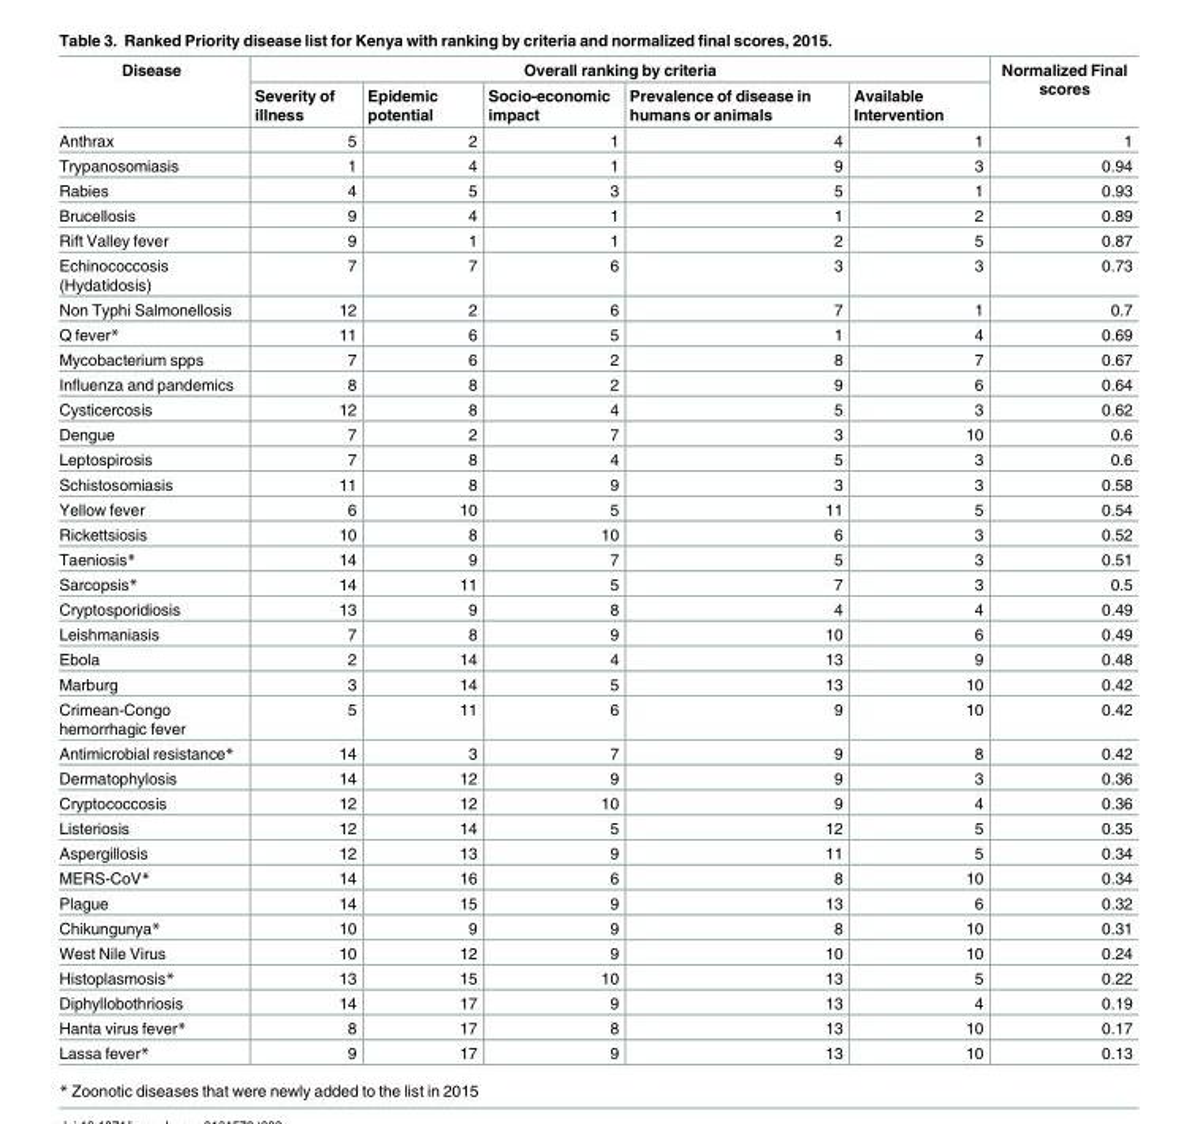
<table><thead><tr><td rowspan="2">Disease</td><td colspan="5">Overall ranking by criteria</td><td rowspan="2">Normalized Final scores</td></tr><tr><td>Severity of illness</td><td>Epidemic potential</td><td>Socio-economic impact</td><td>Prevalence of disease in humans or animals</td><td>Available Intervention</td></tr></thead><tbody><tr><td>Anthrax</td><td>5</td><td>2</td><td>1</td><td>4</td><td>1</td><td>1</td></tr><tr><td>Trypanosomiasis</td><td>1</td><td>4</td><td>1</td><td>9</td><td>3</td><td>0.94</td></tr><tr><td>Rabies</td><td>4</td><td>5</td><td>3</td><td>5</td><td>1</td><td>0.93</td></tr><tr><td>Brucellosis</td><td>9</td><td>4</td><td>1</td><td>1</td><td>2</td><td>0.89</td></tr><tr><td>Rift Valley fever</td><td>9</td><td>1</td><td>1</td><td>2</td><td>5</td><td>0.87</td></tr><tr><td>Echinococcosis (Hydatidosis)</td><td>7</td><td>7</td><td>6</td><td>3</td><td>3</td><td>0.73</td></tr><tr><td>Non Typhi Salmonellosis</td><td>12</td><td>2</td><td>6</td><td>7</td><td>1</td><td>0.7</td></tr><tr><td>Q fever*</td><td>11</td><td>6</td><td>5</td><td>1</td><td>4</td><td>0.69</td></tr><tr><td>Mycobacterium spps</td><td>7</td><td>6</td><td>2</td><td>8</td><td>7</td><td>0.67</td></tr><tr><td>Influenza and pandemics</td><td>8</td><td>8</td><td>2</td><td>9</td><td>6</td><td>0.64</td></tr><tr><td>Cysticercosis</td><td>12</td><td>8</td><td>4</td><td>5</td><td>3</td><td>0.62</td></tr><tr><td>Dengue</td><td>7</td><td>2</td><td>7</td><td>3</td><td>10</td><td>0.6</td></tr><tr><td>Leptospirosis</td><td>7</td><td>8</td><td>4</td><td>5</td><td>3</td><td>0.6</td></tr><tr><td>Schistosomiasis</td><td>11</td><td>8</td><td>9</td><td>3</td><td>3</td><td>0.58</td></tr><tr><td>Yellow fever</td><td>6</td><td>10</td><td>5</td><td>11</td><td>5</td><td>0.54</td></tr><tr><td>Rickettsiosis</td><td>10</td><td>8</td><td>10</td><td>6</td><td>3</td><td>0.52</td></tr><tr><td>Taeniosis*</td><td>14</td><td>9</td><td>7</td><td>5</td><td>3</td><td>0.51</td></tr><tr><td>Sarcopsis*</td><td>14</td><td>11</td><td>5</td><td>7</td><td>3</td><td>0.5</td></tr><tr><td>Cryptosporidiosis</td><td>13</td><td>9</td><td>8</td><td>4</td><td>4</td><td>0.49</td></tr><tr><td>Leishmaniasis</td><td>7</td><td>8</td><td>9</td><td>10</td><td>6</td><td>0.49</td></tr><tr><td>Ebola</td><td>2</td><td>14</td><td>4</td><td>13</td><td>9</td><td>0.48</td></tr><tr><td>Marburg</td><td>3</td><td>14</td><td>5</td><td>13</td><td>10</td><td>0.42</td></tr><tr><td>Crimean-Congo hemorrhagic fever</td><td>5</td><td>11</td><td>6</td><td>9</td><td>10</td><td>0.42</td></tr><tr><td>Antimicrobial resistance*</td><td>14</td><td>3</td><td>7</td><td>9</td><td>8</td><td>0.42</td></tr><tr><td>Dermatophylosis</td><td>14</td><td>12</td><td>9</td><td>9</td><td>3</td><td>0.36</td></tr><tr><td>Cryptococcosis</td><td>12</td><td>12</td><td>10</td><td>9</td><td>4</td><td>0.36</td></tr><tr><td>Listeriosis</td><td>12</td><td>14</td><td>5</td><td>12</td><td>5</td><td>0.35</td></tr><tr><td>Aspergillosis</td><td>12</td><td>13</td><td>9</td><td>11</td><td>5</td><td>0.34</td></tr><tr><td>MERS-CoV*</td><td>14</td><td>16</td><td>6</td><td>8</td><td>10</td><td>0.34</td></tr><tr><td>Plague</td><td>14</td><td>15</td><td>9</td><td>13</td><td>6</td><td>0.32</td></tr><tr><td>Chikungunya*</td><td>10</td><td>9</td><td>9</td><td>8</td><td>10</td><td>0.31</td></tr><tr><td>West Nile Virus</td><td>10</td><td>12</td><td>9</td><td>10</td><td>10</td><td>0.24</td></tr><tr><td>Histoplasmosis*</td><td>13</td><td>15</td><td>10</td><td>13</td><td>5</td><td>0.22</td></tr><tr><td>Diphyllobothriosis</td><td>14</td><td>17</td><td>9</td><td>13</td><td>4</td><td>0.19</td></tr><tr><td>Hanta virus fever*</td><td>8</td><td>17</td><td>8</td><td>13</td><td>10</td><td>0.17</td></tr><tr><td>Lassa fever*</td><td>9</td><td>17</td><td>9</td><td>13</td><td>10</td><td>0.13</td></tr></tbody></table>